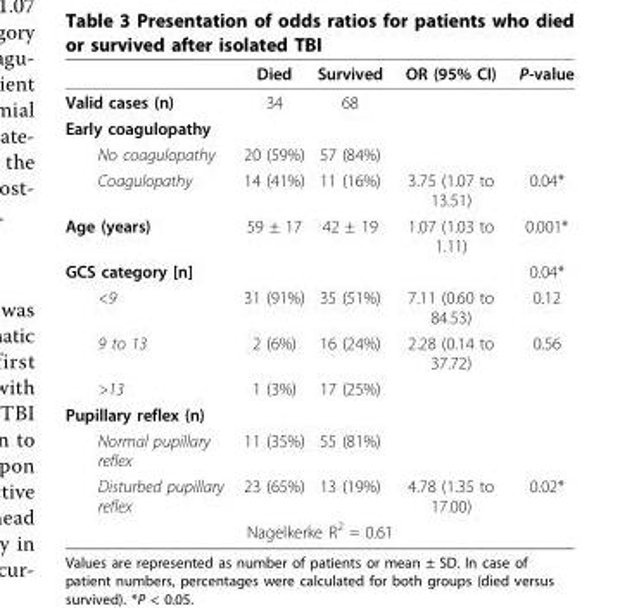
<table><thead><tr><td></td><td>Died</td><td>Survived</td><td>OR (95% CI)</td><td>P-value</td></tr></thead><tbody><tr><td>Valid cases (n)</td><td>34</td><td>68</td><td></td><td></td></tr><tr><td colspan="5">Early coagulopathy</td></tr><tr><td>No coagulopathy</td><td>20 (59%)</td><td>57 (84%)</td><td></td><td></td></tr><tr><td>Coagulopathy</td><td>14 (41%)</td><td>11 (16%)</td><td>3.75 (1.07 to 13.51)</td><td>0.04*</td></tr><tr><td>Age (years)</td><td>59 ± 17</td><td>42 ± 19</td><td>1.07 (1.03 to 1.11)</td><td>0.001*</td></tr><tr><td>GCS category [n]</td><td></td><td></td><td></td><td>0.04*</td></tr><tr><td>&lt;9</td><td>31 (91%)</td><td>35 (51%)</td><td>7.11 (0.60 to 84.53)</td><td>0.12</td></tr><tr><td>9 to 13</td><td>2 (6%)</td><td>16 (24%)</td><td>2.28 (0.14 to 37.72)</td><td>0.56</td></tr><tr><td>&gt;13</td><td>1 (3%)</td><td>17 (25%)</td><td></td><td></td></tr><tr><td colspan="5">Pupillary reflex (n)</td></tr><tr><td>Normal pupillary reflex</td><td>11 (35%)</td><td>55 (81%)</td><td></td><td></td></tr><tr><td>Disturbed pupillary reflex</td><td>23 (65%)</td><td>13 (19%)</td><td>4.78 (1.35 to 17.00)</td><td>0.02*</td></tr><tr><td colspan="5">Nagelkerke R<sup>2</sup> = 0.61</td></tr></tbody></table>